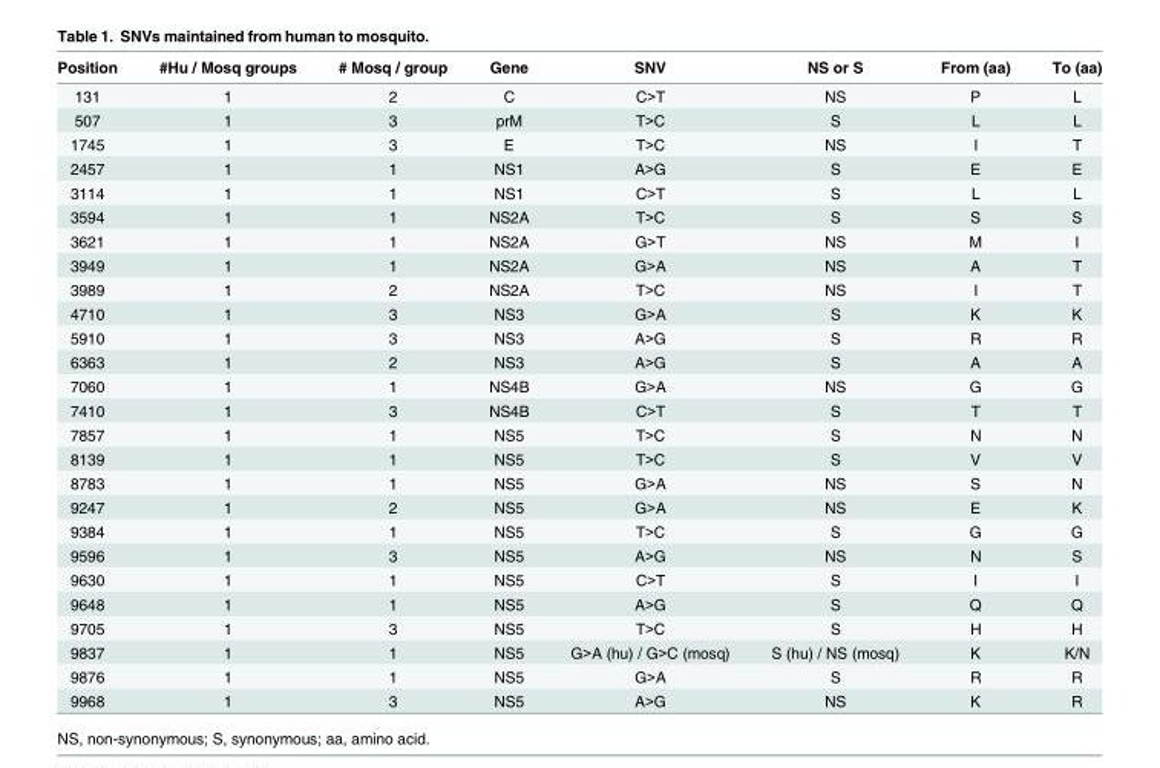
<table><thead><tr><td>Position</td><td>#Hu / Mosq groups</td><td># Mosq / group</td><td>Gene</td><td>SNV</td><td>NS or S</td><td>From (aa)</td><td>To (aa)</td></tr></thead><tbody><tr><td>131</td><td>1</td><td>2</td><td>C</td><td>C&gt;T</td><td>NS</td><td>P</td><td>L</td></tr><tr><td>507</td><td>1</td><td>3</td><td>prM</td><td>T&gt;C</td><td>S</td><td>L</td><td>L</td></tr><tr><td>1745</td><td>1</td><td>3</td><td>E</td><td>T&gt;C</td><td>NS</td><td>I</td><td>T</td></tr><tr><td>2457</td><td>1</td><td>1</td><td>NS1</td><td>A&gt;G</td><td>S</td><td>E</td><td>E</td></tr><tr><td>3114</td><td>1</td><td>1</td><td>NS1</td><td>C&gt;T</td><td>S</td><td>L</td><td>L</td></tr><tr><td>3594</td><td>1</td><td>1</td><td>NS2A</td><td>T&gt;C</td><td>S</td><td>S</td><td>S</td></tr><tr><td>3621</td><td>1</td><td>1</td><td>NS2A</td><td>G&gt;T</td><td>NS</td><td>M</td><td>I</td></tr><tr><td>3949</td><td>1</td><td>1</td><td>NS2A</td><td>G&gt;A</td><td>NS</td><td>A</td><td>T</td></tr><tr><td>3989</td><td>1</td><td>2</td><td>NS2A</td><td>T&gt;C</td><td>NS</td><td>I</td><td>T</td></tr><tr><td>4710</td><td>1</td><td>3</td><td>NS3</td><td>G&gt;A</td><td>S</td><td>K</td><td>K</td></tr><tr><td>5910</td><td>1</td><td>3</td><td>NS3</td><td>A&gt;G</td><td>S</td><td>R</td><td>R</td></tr><tr><td>6363</td><td>1</td><td>2</td><td>NS3</td><td>A&gt;G</td><td>S</td><td>A</td><td>A</td></tr><tr><td>7060</td><td>1</td><td>1</td><td>NS4B</td><td>G&gt;A</td><td>NS</td><td>G</td><td>G</td></tr><tr><td>7410</td><td>1</td><td>3</td><td>NS4B</td><td>C&gt;T</td><td>S</td><td>T</td><td>T</td></tr><tr><td>7857</td><td>1</td><td>1</td><td>NS5</td><td>T&gt;C</td><td>S</td><td>N</td><td>N</td></tr><tr><td>8139</td><td>1</td><td>1</td><td>NS5</td><td>T&gt;C</td><td>S</td><td>V</td><td>V</td></tr><tr><td>8783</td><td>1</td><td>1</td><td>NS5</td><td>G&gt;A</td><td>NS</td><td>S</td><td>N</td></tr><tr><td>9247</td><td>1</td><td>2</td><td>NS5</td><td>G&gt;A</td><td>NS</td><td>E</td><td>K</td></tr><tr><td>9384</td><td>1</td><td>1</td><td>NS5</td><td>T&gt;C</td><td>S</td><td>G</td><td>G</td></tr><tr><td>9596</td><td>1</td><td>3</td><td>NS5</td><td>A&gt;G</td><td>NS</td><td>N</td><td>S</td></tr><tr><td>9630</td><td>1</td><td>1</td><td>NS5</td><td>C&gt;T</td><td>S</td><td>I</td><td>I</td></tr><tr><td>9648</td><td>1</td><td>1</td><td>NS5</td><td>A&gt;G</td><td>S</td><td>Q</td><td>Q</td></tr><tr><td>9705</td><td>1</td><td>3</td><td>NS5</td><td>T&gt;C</td><td>S</td><td>H</td><td>H</td></tr><tr><td>9837</td><td>1</td><td>1</td><td>NS5</td><td>G&gt;A (hu) / G&gt;C (mosq)</td><td>S (hu) / NS (mosq)</td><td>K</td><td>K/N</td></tr><tr><td>9876</td><td>1</td><td>1</td><td>NS5</td><td>G&gt;A</td><td>S</td><td>R</td><td>R</td></tr><tr><td>9968</td><td>1</td><td>3</td><td>NS5</td><td>A&gt;G</td><td>NS</td><td>K</td><td>R</td></tr></tbody></table>